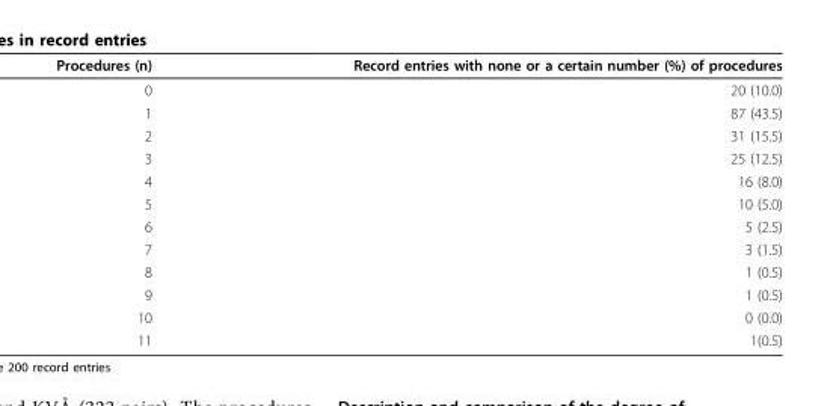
<table><thead><tr><td>Procedures (n)</td><td>Record entries with none or a certain number (%) of procedures</td></tr></thead><tbody><tr><td>0</td><td>20 (10.0)</td></tr><tr><td>1</td><td>87 (43.5)</td></tr><tr><td>2</td><td>31 (15.5)</td></tr><tr><td>3</td><td>25 (12.5)</td></tr><tr><td>4</td><td>16 (8.0)</td></tr><tr><td>5</td><td>10 (5.0)</td></tr><tr><td>6</td><td>5 (2.5)</td></tr><tr><td>7</td><td>3 (1.5)</td></tr><tr><td>8</td><td>1 (0.5)</td></tr><tr><td>9</td><td>1 (0.5)</td></tr><tr><td>10</td><td>0 (0.0)</td></tr><tr><td>11</td><td>1(0.5)</td></tr></tbody></table>